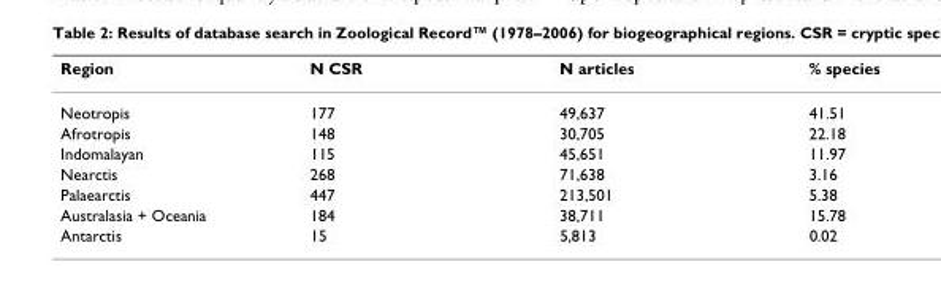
<table><thead><tr><td>Region</td><td>N CSR</td><td>N articles</td><td>% species</td></tr></thead><tbody><tr><td>Neotropis</td><td>177</td><td>49,637</td><td>41.51</td></tr><tr><td>Afrotropis</td><td>148</td><td>30,705</td><td>22.18</td></tr><tr><td>Indomalayan</td><td>115</td><td>45,651</td><td>11.97</td></tr><tr><td>Nearctis</td><td>268</td><td>71,638</td><td>3.16</td></tr><tr><td>Palaearctis</td><td>447</td><td>213,501</td><td>5.38</td></tr><tr><td>Australasia + Oceania</td><td>184</td><td>38,711</td><td>15.78</td></tr><tr><td>Antarctis</td><td>15</td><td>5,813</td><td>0.02</td></tr></tbody></table>